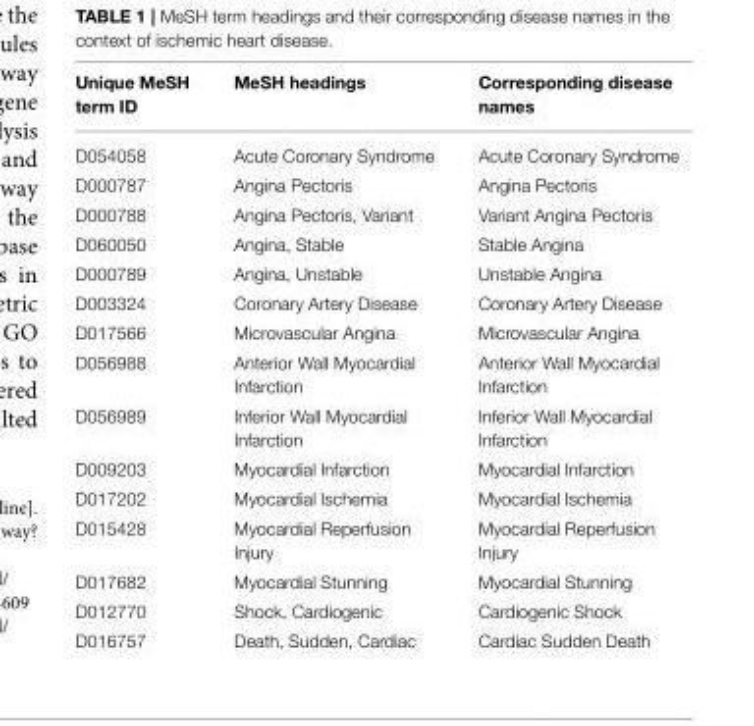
<table><thead><tr><td>Unique MeSH term ID</td><td>MeSH headings</td><td>Corresponding disease names</td></tr></thead><tbody><tr><td>D054058</td><td>Acute Coronary Syndrome</td><td>Acute Coronary Syndrome</td></tr><tr><td>D000787</td><td>Angina Pectoris</td><td>Angina Pectoris</td></tr><tr><td>D000788</td><td>Angina Pectoris, Variant</td><td>Variant Angina Pectoris</td></tr><tr><td>D060050</td><td>Angina, Stable</td><td>Stable Angina</td></tr><tr><td>D000789</td><td>Angina, Unstable</td><td>Unstable Angina</td></tr><tr><td>D003324</td><td>Coronary Artery Disease</td><td>Coronary Artery Disease</td></tr><tr><td>D017566</td><td>Microvascular Angina</td><td>Microvascular Angina</td></tr><tr><td>D056988</td><td>Anterior Wall Myocardial Infarction</td><td>Anterior Wall Myocardial Infarction</td></tr><tr><td>D056989</td><td>Inferior Wall Myocardial Infarction</td><td>Inferior Wall Myocardial Infarction</td></tr><tr><td>D009203</td><td>Myocardial Infarction</td><td>Myocardial Infarction</td></tr><tr><td>D017202</td><td>Myocardial Ischemia</td><td>Myocardial Ischemia</td></tr><tr><td>D015428</td><td>Myocardial Reperfusion Injury</td><td>Myocardial Reperfusion Injury</td></tr><tr><td>D017682</td><td>Myocardial Stunning</td><td>Myocardial Stunning</td></tr><tr><td>D012770</td><td>Shock, Cardiogenic</td><td>Cardiogenic Shock</td></tr><tr><td>D016757</td><td>Death, Sudden, Cardiac</td><td>Cardiac Sudden Death</td></tr></tbody></table>